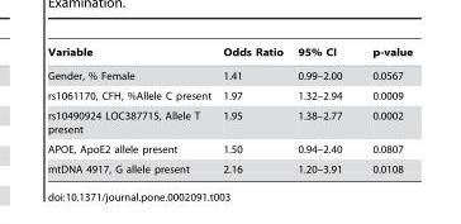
<table><thead><tr><td>Variable</td><td>Odds Ratio</td><td>95% CI</td><td>p-value</td></tr></thead><tbody><tr><td>Gender, % Female</td><td>1.41</td><td>0.99–2.00</td><td>0.0567</td></tr><tr><td>rs1061170, CFH, %Allele C present</td><td>1.97</td><td>1.32–2.94</td><td>0.0009</td></tr><tr><td>rs10490924 LOC387715, Allele T present</td><td>1.95</td><td>1.38–2.77</td><td>0.0002</td></tr><tr><td>APOE, ApoE2 allele present</td><td>1.50</td><td>0.94–2.40</td><td>0.0807</td></tr><tr><td>mtDNA 4917, G allele present</td><td>2.16</td><td>1.20–3.91</td><td>0.0108</td></tr></tbody></table>